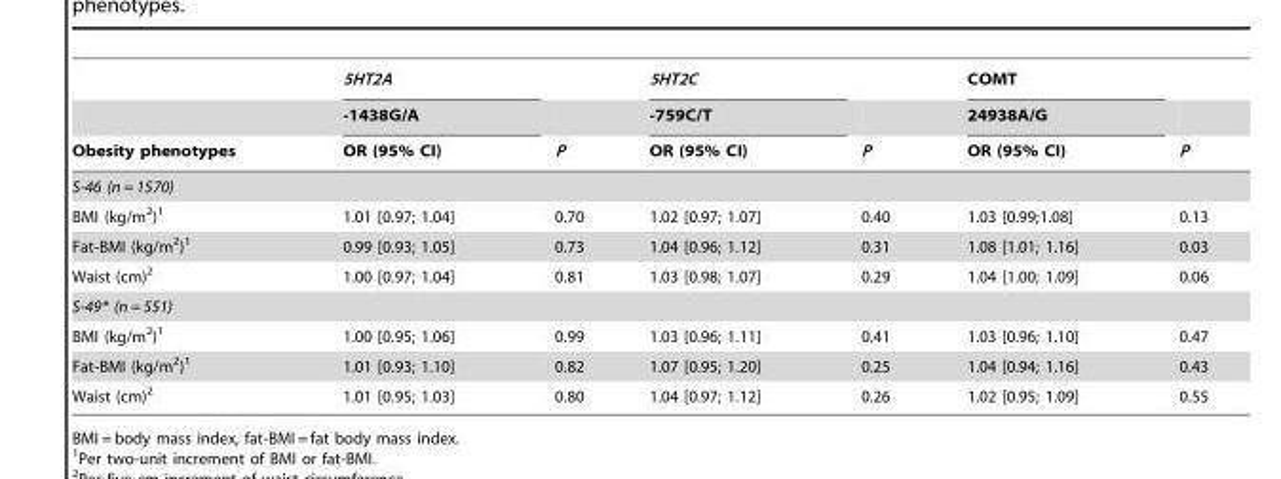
<table><thead><tr><td rowspan="3">Obesity phenotypes</td><td rowspan="3">5HT2A -1438G/A OR (95% CI)</td><td rowspan="3">P</td><td rowspan="3">5HT2C -759C/T OR (95% CI)</td><td rowspan="3">P</td><td rowspan="3">COMT 24938A/G OR (95% CI)</td><td rowspan="3">P</td></tr><tr></tr><tr></tr></thead><tbody><tr><td colspan="7">S-46 (n = 1570)</td></tr><tr><td>BMI (kg/m<sup>2</sup>)<sup>1</sup></td><td>1.01 [0.97; 1.04]</td><td>0.70</td><td>1.02 [0.97; 1.07]</td><td>0.40</td><td>1.03 [0.99;1.08]</td><td>0.13</td></tr><tr><td>Fat-BMI (kg/m<sup>2</sup>)<sup>1</sup></td><td>0.99 [0.93; 1.05]</td><td>0.73</td><td>1.04 [0.96; 1.12]</td><td>0.31</td><td>1.08 [1.01; 1.16]</td><td>0.03</td></tr><tr><td>Waist (cm)<sup>2</sup></td><td>1.00 [0.97; 1.04]</td><td>0.81</td><td>1.03 [0.98; 1.07]</td><td>0.29</td><td>1.04 [1.00; 1.09]</td><td>0.06</td></tr><tr><td colspan="7">S-49* (n = 551)</td></tr><tr><td>BMI (kg/m<sup>2</sup>)<sup>1</sup></td><td>1.00 [0.95; 1.06]</td><td>0.99</td><td>1.03 [0.96; 1.11]</td><td>0.41</td><td>1.03 [0.96; 1.10]</td><td>0.47</td></tr><tr><td>Fat-BMI (kg/m<sup>2</sup>)<sup>1</sup></td><td>1.01 [0.93; 1.10]</td><td>0.82</td><td>1.07 [0.95; 1.20]</td><td>0.25</td><td>1.04 [0.94; 1.16]</td><td>0.43</td></tr><tr><td>Waist (cm)<sup>2</sup></td><td>1.01 [0.95; 1.03]</td><td>0.80</td><td>1.04 [0.97; 1.12]</td><td>0.26</td><td>1.02 [0.95; 1.09]</td><td>0.55</td></tr></tbody></table>